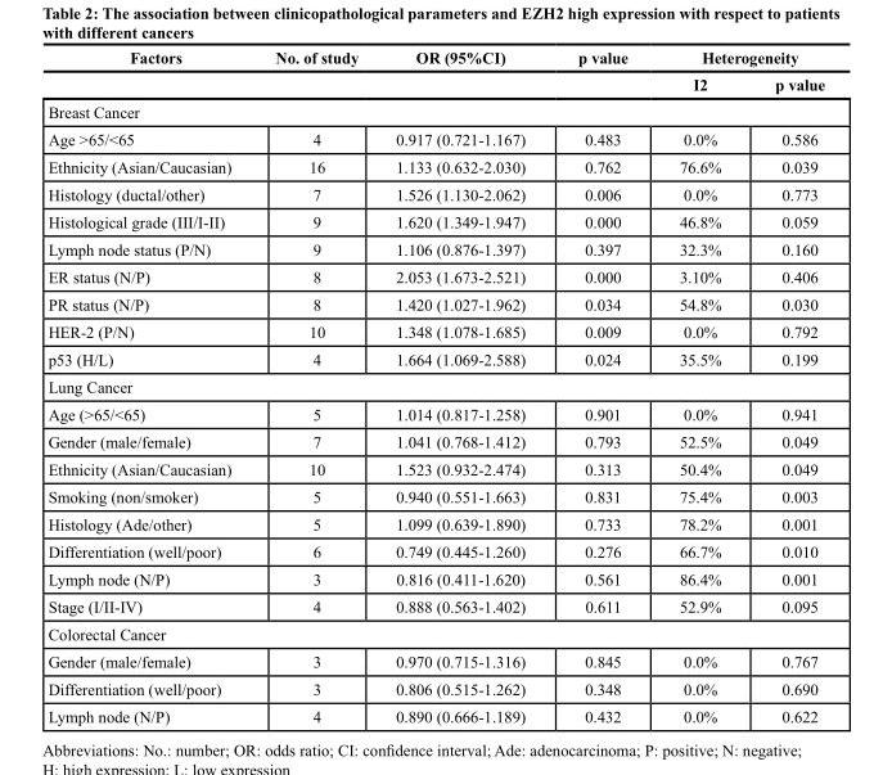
<table><thead><tr><td rowspan="2">Factors</td><td rowspan="2">No. of study</td><td rowspan="2">OR (95%CI)</td><td rowspan="2">p value</td><td colspan="2">Heterogeneity</td></tr><tr><td>I2</td><td>p value</td></tr></thead><tbody><tr><td colspan="6">Breast Cancer</td></tr><tr><td>Age &gt;65/&lt;65</td><td>4</td><td>0.917 (0.721-1.167)</td><td>0.483</td><td>0.0%</td><td>0.586</td></tr><tr><td>Ethnicity (Asian/Caucasian)</td><td>16</td><td>1.133 (0.632-2.030)</td><td>0.762</td><td>76.6%</td><td>0.039</td></tr><tr><td>Histology (ductal/other)</td><td>7</td><td>1.526 (1.130-2.062)</td><td>0.006</td><td>0.0%</td><td>0.773</td></tr><tr><td>Histological grade (III/I-II)</td><td>9</td><td>1.620 (1.349-1.947)</td><td>0.000</td><td>46.8%</td><td>0.059</td></tr><tr><td>Lymph node status (P/N)</td><td>9</td><td>1.106 (0.876-1.397)</td><td>0.397</td><td>32.3%</td><td>0.160</td></tr><tr><td>ER status (N/P)</td><td>8</td><td>2.053 (1.673-2.521)</td><td>0.000</td><td>3.10%</td><td>0.406</td></tr><tr><td>PR status (N/P)</td><td>8</td><td>1.420 (1.027-1.962)</td><td>0.034</td><td>54.8%</td><td>0.030</td></tr><tr><td>HER-2 (P/N)</td><td>10</td><td>1.348 (1.078-1.685)</td><td>0.009</td><td>0.0%</td><td>0.792</td></tr><tr><td>p53 (H/L)</td><td>4</td><td>1.664 (1.069-2.588)</td><td>0.024</td><td>35.5%</td><td>0.199</td></tr><tr><td colspan="6">Lung Cancer</td></tr><tr><td>Age (&gt;65/&lt;65)</td><td>5</td><td>1.014 (0.817-1.258)</td><td>0.901</td><td>0.0%</td><td>0.941</td></tr><tr><td>Gender (male/female)</td><td>7</td><td>1.041 (0.768-1.412)</td><td>0.793</td><td>52.5%</td><td>0.049</td></tr><tr><td>Ethnicity (Asian/Caucasian)</td><td>10</td><td>1.523 (0.932-2.474)</td><td>0.313</td><td>50.4%</td><td>0.049</td></tr><tr><td>Smoking (non/smoker)</td><td>5</td><td>0.940 (0.551-1.663)</td><td>0.831</td><td>75.4%</td><td>0.003</td></tr><tr><td>Histology (Ade/other)</td><td>5</td><td>1.099 (0.639-1.890)</td><td>0.733</td><td>78.2%</td><td>0.001</td></tr><tr><td>Differentiation (well/poor)</td><td>6</td><td>0.749 (0.445-1.260)</td><td>0.276</td><td>66.7%</td><td>0.010</td></tr><tr><td>Lymph node (N/P)</td><td>3</td><td>0.816 (0.411-1.620)</td><td>0.561</td><td>86.4%</td><td>0.001</td></tr><tr><td>Stage (I/II-IV)</td><td>4</td><td>0.888 (0.563-1.402)</td><td>0.611</td><td>52.9%</td><td>0.095</td></tr><tr><td colspan="6">Colorectal Cancer</td></tr><tr><td>Gender (male/female)</td><td>3</td><td>0.970 (0.715-1.316)</td><td>0.845</td><td>0.0%</td><td>0.767</td></tr><tr><td>Differentiation (well/poor)</td><td>3</td><td>0.806 (0.515-1.262)</td><td>0.348</td><td>0.0%</td><td>0.690</td></tr><tr><td>Lymph node (N/P)</td><td>4</td><td>0.890 (0.666-1.189)</td><td>0.432</td><td>0.0%</td><td>0.622</td></tr></tbody></table>